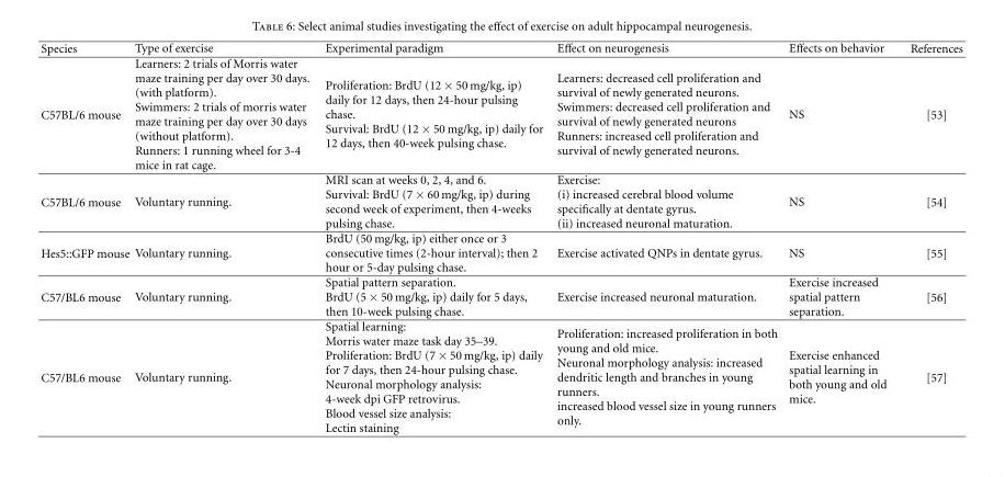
<table><thead><tr><td>Species</td><td>Type of exercise</td><td>Experimental paradigm</td><td>Effect on neurogenesis</td><td>Effects on behavior</td><td>References</td></tr></thead><tbody><tr><td>C57BL/6 mouse</td><td>Learners: 2 trials of Morris water maze training per day over 30 days. (with platform). Swimmers: 2 trials of morris water maze training per day over 30 days (without platform). Runners: 1 running wheel for 3-4 mice in rat cage.</td><td>Proliferation: BrdU (12 × 50 mg/kg, ip) daily for 12 days, then 24-hour pulsing chase. Survival: BrdU (12 × 50 mg/kg, ip) daily for 12 days, then 40-week pulsing chase.</td><td>Learners: decreased cell proliferation and survival of newly generated neurons. Swimmers: decreased cell proliferation and survival of newly generated neurons Runners: increased cell proliferation and survival of newly generated neurons.</td><td>NS</td><td>[53]</td></tr><tr><td>C57BL/6 mouse</td><td>Voluntary running.</td><td>MRI scan at weeks 0, 2, 4, and 6. Survival: BrdU (7 × 60 mg/kg, ip) during second week of experiment, then 4-weeks pulsing chase.</td><td>Exercise: (i) increased cerebral blood volume specifically at dentate gyrus. (ii) increased neuronal maturation.</td><td>NS</td><td>[54]</td></tr><tr><td>Hes5::GFP mouse</td><td>Voluntary running.</td><td>BrdU (50 mg/kg, ip) either once or 3 consecutive times (2-hour interval); then 2 hour or 5-day pulsing chase.</td><td>Exercise activated QNPs in dentate gyrus.</td><td>NS</td><td>[55]</td></tr><tr><td>C57/BL6 mouse</td><td>Voluntary running.</td><td>Spatial pattern separation. BrdU (5 × 50 mg/kg, ip) daily for 5 days, then 10-week pulsing chase.</td><td>Exercise increased neuronal maturation.</td><td>Exercise increased spatial pattern separation.</td><td>[56]</td></tr><tr><td>C57/BL6 mouse</td><td>Voluntary running.</td><td>Spatial learning: Morris water maze task day 35–39. Proliferation: BrdU (7 × 50 mg/kg, ip) daily for 7 days, then 24-hour pulsing chase. Neuronal morphology analysis: 4-week dpi GFP retrovirus. Blood vessel size analysis: Lectin staining</td><td>Proliferation: increased proliferation in both young and old mice. Neuronal morphology analysis: increased dendritic length and branches in young runners. increased blood vessel size in young runners only.</td><td>Exercise enhanced spatial learning in both young and old mice.</td><td>[57]</td></tr></tbody></table>